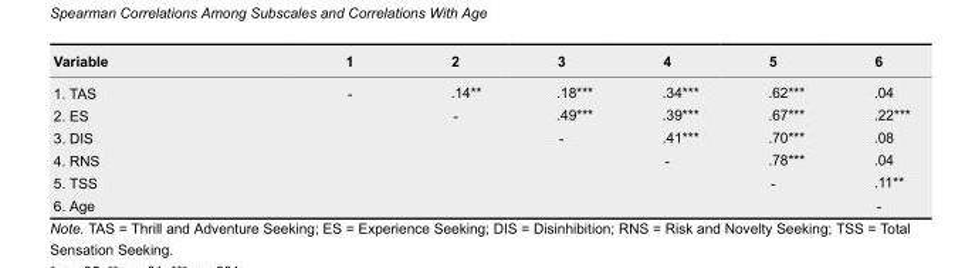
<table><thead><tr><td>Variable</td><td>1</td><td>2</td><td>3</td><td>4</td><td>5</td><td>6</td></tr></thead><tbody><tr><td>1. TAS</td><td>-</td><td>.14**</td><td>.18***</td><td>.34***</td><td>.62***</td><td>.04</td></tr><tr><td>2. ES</td><td></td><td>-</td><td>.49***</td><td>.39***</td><td>.67***</td><td>.22***</td></tr><tr><td>3. DIS</td><td></td><td></td><td>-</td><td>.41***</td><td>.70***</td><td>.08</td></tr><tr><td>4. RNS</td><td></td><td></td><td></td><td>-</td><td>.78***</td><td>.04</td></tr><tr><td>5. TSS</td><td></td><td></td><td></td><td></td><td>-</td><td>.11**</td></tr><tr><td>6. Age</td><td></td><td></td><td></td><td></td><td></td><td>-</td></tr></tbody></table>